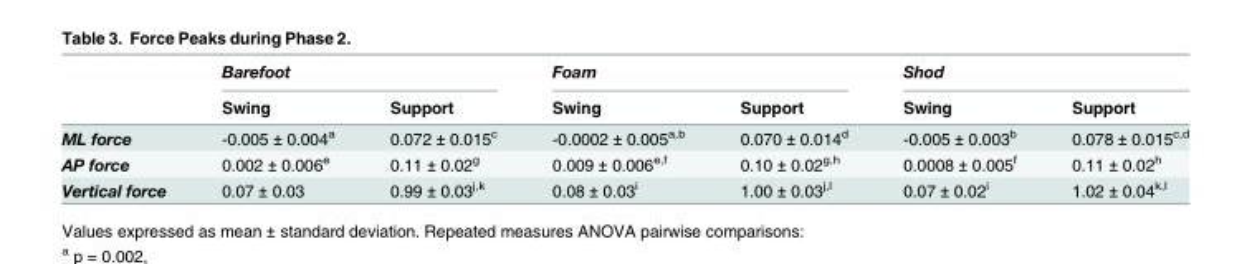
<table><thead><tr><td rowspan="2"></td><td colspan="2">Barefoot</td><td colspan="2">Foam</td><td colspan="2">Shod</td></tr><tr><td>Swing</td><td>Support</td><td>Swing</td><td>Support</td><td>Swing</td><td>Support</td></tr></thead><tbody><tr><td>ML force</td><td>-0.005 ± 0.004<sup>a</sup></td><td>0.072 ± 0.015<sup>c</sup></td><td>-0.0002 ± 0.005<sup>a,b</sup></td><td>0.070 ± 0.014<sup>d</sup></td><td>-0.005 ± 0.003<sup>b</sup></td><td>0.078 ± 0.015<sup>c,d</sup></td></tr><tr><td>AP force</td><td>0.002 ± 0.006<sup>e</sup></td><td>0.11 ± 0.02<sup>g</sup></td><td>0.009 ± 0.006<sup>e,f</sup></td><td>0.10 ± 0.02<sup>g,h</sup></td><td>0.0008 ± 0.005<sup>f</sup></td><td>0.11 ± 0.02<sup>h</sup></td></tr><tr><td>Vertical force</td><td>0.07 ± 0.03</td><td>0.99 ± 0.03<sup>j,k</sup></td><td>0.08 ± 0.03<sup>i</sup></td><td>1.00 ± 0.03<sup>j,l</sup></td><td>0.07 ± 0.02<sup>i</sup></td><td>1.02 ± 0.04<sup>k,l</sup></td></tr></tbody></table>